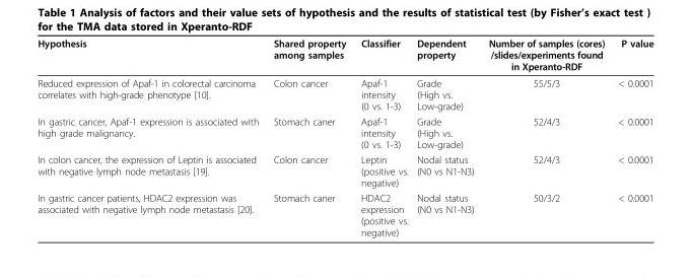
<table><thead><tr><td>Hypothesis</td><td>Shared property among samples</td><td>Classifier</td><td>Dependent property</td><td>Number of samples (cores) /slides/experiments found in Xperanto-RDF</td><td>P value</td></tr></thead><tbody><tr><td>Reduced expression of Apaf-1 in colorectal carcinoma correlates with high-grade phenotype [10].</td><td>Colon cancer</td><td>Apaf-1 intensity (0 vs. 1-3)</td><td>Grade (High vs. Low-grade)</td><td>55/5/3</td><td>&lt; 0.0001</td></tr><tr><td>In gastric cancer, Apaf-1 expression is associated with high grade malignancy.</td><td>Stomach caner</td><td>Apaf-1 intensity (0 vs. 1-3)</td><td>Grade (High vs. Low-grade)</td><td>52/4/3</td><td>&lt; 0.0001</td></tr><tr><td>In colon cancer, the expression of Leptin is associated with negative lymph node metastasis [19].</td><td>Colon cancer</td><td>Leptin (positive vs. negative)</td><td>Nodal status (N0 vs N1-N3)</td><td>52/4/3</td><td>&lt; 0.0001</td></tr><tr><td>In gastric cancer patients, HDAC2 expression was associated with negative lymph node metastasis [20].</td><td>Stomach caner</td><td>HDAC2 expression (positive vs. negative)</td><td>Nodal status (N0 vs N1-N3)</td><td>50/3/2</td><td>&lt; 0.0001</td></tr></tbody></table>